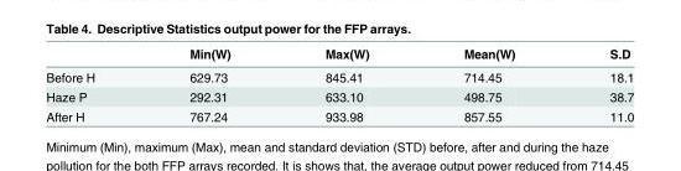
<table><thead><tr><td></td><td>Min(W)</td><td>Max(W)</td><td>Mean(W)</td><td>S.D</td></tr></thead><tbody><tr><td>Before H</td><td>629.73</td><td>845.41</td><td>714.45</td><td>18.1</td></tr><tr><td>Haze P</td><td>292.31</td><td>633.10</td><td>498.75</td><td>38.7</td></tr><tr><td>After H</td><td>767.24</td><td>933.98</td><td>857.55</td><td>11.0</td></tr></tbody></table>